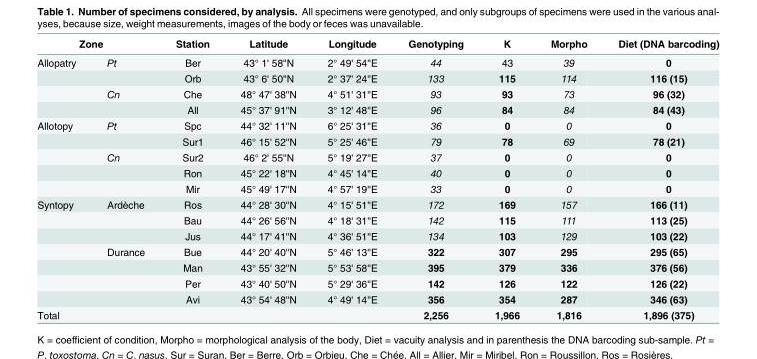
<table><thead><tr><td colspan="2">Zone</td><td rowspan="2">Station Ber</td><td rowspan="2">Latitude 43° 1&#x27; 58&#x27;&#x27;N</td><td rowspan="2">Longitude 2° 49&#x27; 54&#x27;&#x27;E</td><td rowspan="2">Genotyping 44</td><td rowspan="2">K 43</td><td rowspan="2">Morpho 39</td><td rowspan="2">Diet (DNA barcoding) 0</td></tr><tr><td>Allopatry</td><td>Pt</td></tr></thead><tbody><tr><td></td><td></td><td>Orb</td><td>43° 6&#x27; 50&#x27;&#x27;N</td><td>2° 37&#x27; 24&#x27;&#x27;E</td><td>133</td><td>115</td><td>114</td><td>116 (15)</td></tr><tr><td></td><td>Cn</td><td>Che</td><td>48° 47&#x27; 38&#x27;&#x27;N</td><td>4° 51&#x27; 31&#x27;&#x27;E</td><td>93</td><td>93</td><td>73</td><td>96 (32)</td></tr><tr><td></td><td></td><td>All</td><td>45° 37&#x27; 91&#x27;&#x27;N</td><td>3° 12&#x27; 48&#x27;&#x27;E</td><td>96</td><td>84</td><td>84</td><td>84 (43)</td></tr><tr><td rowspan="5">Allotopy</td><td>Pt</td><td>Spc</td><td>44° 32&#x27; 11&#x27;&#x27;N</td><td>6° 25&#x27; 31&#x27;&#x27;E</td><td>36</td><td>0</td><td>0</td><td>0</td></tr><tr><td></td><td>Sur1</td><td>46° 15&#x27; 52&#x27;&#x27;N</td><td>5° 25&#x27; 46&#x27;&#x27;E</td><td>79</td><td>78</td><td>69</td><td>78 (21)</td></tr><tr><td>Cn</td><td>Sur2</td><td>46° 2&#x27; 55&#x27;&#x27;N</td><td>5° 19&#x27; 27&#x27;&#x27;E</td><td>37</td><td>0</td><td>0</td><td>0</td></tr><tr><td></td><td>Ron</td><td>45° 22&#x27; 18&#x27;&#x27;N</td><td>4° 45&#x27; 14&#x27;&#x27;E</td><td>40</td><td>0</td><td>0</td><td>0</td></tr><tr><td></td><td>Mir</td><td>45° 49&#x27; 17&#x27;&#x27;N</td><td>4° 57&#x27; 19&#x27;&#x27;E</td><td>33</td><td>0</td><td>0</td><td>0</td></tr><tr><td rowspan="7">Syntopy</td><td>Ardèche</td><td>Ros</td><td>44° 28&#x27; 30&#x27;&#x27;N</td><td>4° 15&#x27; 51&#x27;&#x27;E</td><td>172</td><td>169</td><td>157</td><td>166 (11)</td></tr><tr><td></td><td>Bau</td><td>44° 26&#x27; 56&#x27;&#x27;N</td><td>4° 18&#x27; 31&#x27;&#x27;E</td><td>142</td><td>115</td><td>111</td><td>113 (25)</td></tr><tr><td></td><td>Jus</td><td>44° 17&#x27; 41&#x27;&#x27;N</td><td>4° 36&#x27; 51&#x27;&#x27;E</td><td>134</td><td>103</td><td>129</td><td>103 (22)</td></tr><tr><td>Durance</td><td>Bue</td><td>44° 20&#x27; 40&#x27;&#x27;N</td><td>5° 46&#x27; 13&#x27;&#x27;E</td><td>322</td><td>307</td><td>295</td><td>295 (65)</td></tr><tr><td></td><td>Man</td><td>43° 55&#x27; 32&#x27;&#x27;N</td><td>5° 53&#x27; 58&#x27;&#x27;E</td><td>395</td><td>379</td><td>336</td><td>376 (56)</td></tr><tr><td></td><td>Per</td><td>43° 40&#x27; 50&#x27;&#x27;N</td><td>5° 29&#x27; 36&#x27;&#x27;E</td><td>142</td><td>126</td><td>122</td><td>126 (22)</td></tr><tr><td></td><td>Avi</td><td>43° 54&#x27; 48&#x27;&#x27;N</td><td>4° 49&#x27; 14&#x27;&#x27;E</td><td>356</td><td>354</td><td>287</td><td>346 (63)</td></tr><tr><td>Total</td><td></td><td></td><td></td><td></td><td>2,256</td><td>1,966</td><td>1,816</td><td>1,896 (375)</td></tr></tbody></table>